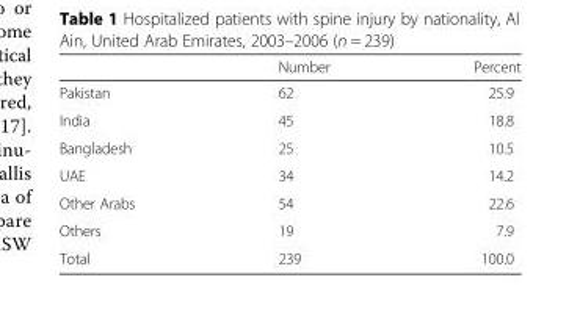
<table><thead><tr><td></td><td>Number</td><td>Percent</td></tr></thead><tbody><tr><td>Pakistan</td><td>62</td><td>25.9</td></tr><tr><td>India</td><td>45</td><td>18.8</td></tr><tr><td>Bangladesh</td><td>25</td><td>10.5</td></tr><tr><td>UAE</td><td>34</td><td>14.2</td></tr><tr><td>Other Arabs</td><td>54</td><td>22.6</td></tr><tr><td>Others</td><td>19</td><td>7.9</td></tr><tr><td>Total</td><td>239</td><td>100.0</td></tr></tbody></table>